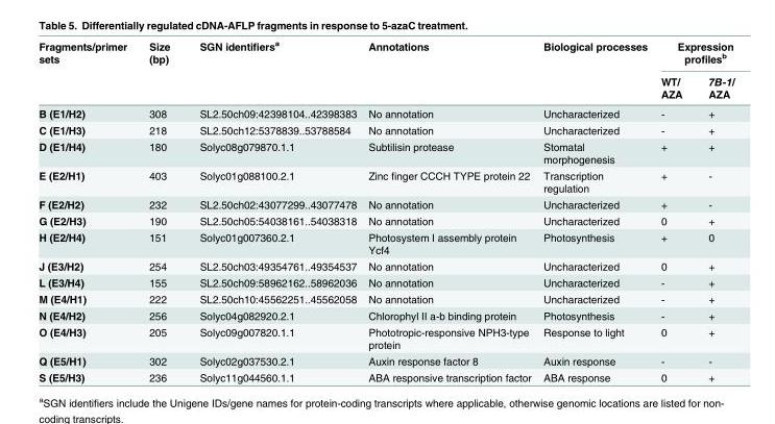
<table><thead><tr><td rowspan="2">Fragments/primer sets</td><td rowspan="2">Size (bp)</td><td rowspan="2">SGN identifiers<sup>a</sup></td><td rowspan="2">Annotations</td><td rowspan="2">Biological processes</td><td colspan="2">Expression profiles<sup>b</sup></td></tr><tr><td>WT/ AZA</td><td>7B-1/ AZA</td></tr></thead><tbody><tr><td>B (E1/H2)</td><td>308</td><td>SL2.50ch09:42398104..42398383</td><td>No annotation</td><td>Uncharacterized</td><td>-</td><td>+</td></tr><tr><td>C (E1/H3)</td><td>218</td><td>SL2.50ch12:5378839..53788584</td><td>No annotation</td><td>Uncharacterized</td><td>-</td><td>+</td></tr><tr><td>D (E1/H4)</td><td>180</td><td>Solyc08g079870.1.1</td><td>Subtilisin protease</td><td>Stomatal morphogenesis</td><td>+</td><td>+</td></tr><tr><td>E (E2/H1)</td><td>403</td><td>Solyc01g088100.2.1</td><td>Zinc finger CCCH TYPE protein 22</td><td>Transcription regulation</td><td>+</td><td>-</td></tr><tr><td>F (E2/H2)</td><td>232</td><td>SL2.50ch02:43077299..43077478</td><td>No annotation</td><td>Uncharacterized</td><td>+</td><td>-</td></tr><tr><td>G (E2/H3)</td><td>190</td><td>SL2.50ch05:54038161..54038318</td><td>No annotation</td><td>Uncharacterized</td><td>0</td><td>+</td></tr><tr><td>H (E2/H4)</td><td>151</td><td>Solyc01g007360.2.1</td><td>Photosystem I assembly protein Ycf4</td><td>Photosynthesis</td><td>+</td><td>0</td></tr><tr><td>J (E3/H2)</td><td>254</td><td>SL2.50ch03:49354761..49354537</td><td>No annotation</td><td>Uncharacterized</td><td>0</td><td>+</td></tr><tr><td>L (E3/H4)</td><td>155</td><td>SL2.50ch09:58962162..58962036</td><td>No annotation</td><td>Uncharacterized</td><td>-</td><td>+</td></tr><tr><td>M (E4/H1)</td><td>222</td><td>SL2.50ch10:45562251..45562058</td><td>No annotation</td><td>Uncharacterized</td><td>-</td><td>+</td></tr><tr><td>N (E4/H2)</td><td>256</td><td>Solyc04g082920.2.1</td><td>Chlorophyl II a-b binding protein</td><td>Photosynthesis</td><td>-</td><td>+</td></tr><tr><td>O (E4/H3)</td><td>205</td><td>Solyc09g007820.1.1</td><td>Phototropic-responsive NPH3-type protein</td><td>Response to light</td><td>0</td><td>+</td></tr><tr><td>Q (E5/H1)</td><td>302</td><td>Solyc02g037530.2.1</td><td>Auxin response factor 8</td><td>Auxin response</td><td>-</td><td>-</td></tr><tr><td>S (E5/H3)</td><td>236</td><td>Solyc11g044560.1.1</td><td>ABA responsive transcription factor</td><td>ABA response</td><td>0</td><td>+</td></tr></tbody></table>